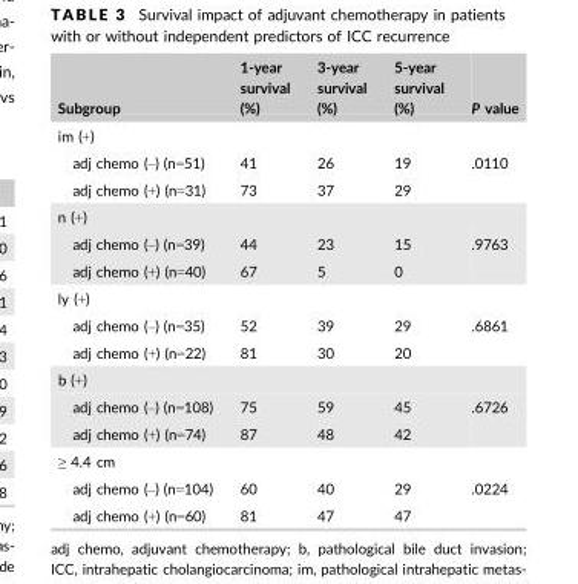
<table><thead><tr><td>Subgroup</td><td>1-year survival (%)</td><td>3-year survival (%)</td><td>5-year survival (%)</td><td>P value</td></tr></thead><tbody><tr><td colspan="5">im (+)</td></tr><tr><td>adj chemo (–) (n=51)</td><td>41</td><td>26</td><td>19</td><td>.0110</td></tr><tr><td>adj chemo (+) (n=31)</td><td>73</td><td>37</td><td>29</td><td></td></tr><tr><td colspan="5">n (+)</td></tr><tr><td>adj chemo (–) (n=39)</td><td>44</td><td>23</td><td>15</td><td>.9763</td></tr><tr><td>adj chemo (+) (n=40)</td><td>67</td><td>5</td><td>0</td><td></td></tr><tr><td colspan="5">ly (+)</td></tr><tr><td>adj chemo (–) (n=35)</td><td>52</td><td>39</td><td>29</td><td>.6861</td></tr><tr><td>adj chemo (+) (n=22)</td><td>81</td><td>30</td><td>20</td><td></td></tr><tr><td colspan="5">b (+)</td></tr><tr><td>adj chemo (–) (n=108)</td><td>75</td><td>59</td><td>45</td><td>.6726</td></tr><tr><td>adj chemo (+) (n=74)</td><td>87</td><td>48</td><td>42</td><td></td></tr><tr><td colspan="5">≥ 4.4 cm</td></tr><tr><td>adj chemo (–) (n=104)</td><td>60</td><td>40</td><td>29</td><td>.0224</td></tr><tr><td>adj chemo (+) (n=60)</td><td>81</td><td>47</td><td>47</td><td></td></tr></tbody></table>